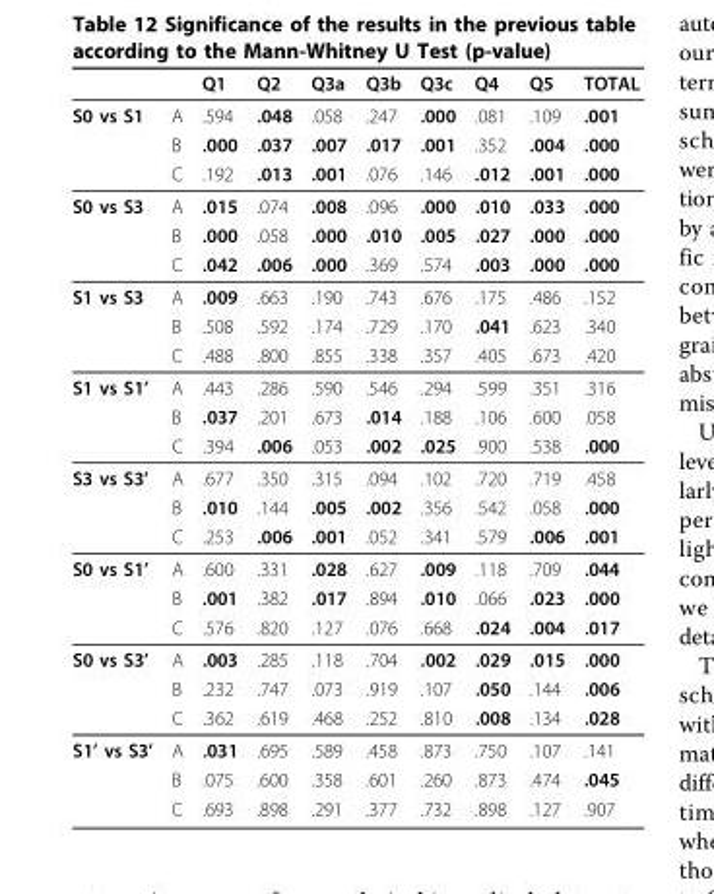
<table><thead><tr><td></td><td></td><td>Q1</td><td>Q2</td><td>Q3a</td><td>Q3b</td><td>Q3c</td><td>Q4</td><td>Q5</td><td>TOTAL</td></tr></thead><tbody><tr><td rowspan="3">S0 vs S1</td><td>A</td><td>.594</td><td>.048</td><td>.058</td><td>.247</td><td>.000</td><td>.081</td><td>.109</td><td>.001</td></tr><tr><td>B</td><td>.000</td><td>.037</td><td>.007</td><td>.017</td><td>.001</td><td>.352</td><td>.004</td><td>.000</td></tr><tr><td>C</td><td>.192</td><td>.013</td><td>.001</td><td>.076</td><td>.146</td><td>.012</td><td>.001</td><td>.000</td></tr><tr><td rowspan="3">S0 vs S3</td><td>A</td><td>.015</td><td>.074</td><td>.008</td><td>.096</td><td>.000</td><td>.010</td><td>.033</td><td>.000</td></tr><tr><td>B</td><td>.000</td><td>.058</td><td>.000</td><td>.010</td><td>.005</td><td>.027</td><td>.000</td><td>.000</td></tr><tr><td>C</td><td>.042</td><td>.006</td><td>.000</td><td>.369</td><td>.574</td><td>.003</td><td>.000</td><td>.000</td></tr><tr><td rowspan="3">S1 vs S3</td><td>A</td><td>.009</td><td>.663</td><td>.190</td><td>.743</td><td>.676</td><td>.175</td><td>.486</td><td>.152</td></tr><tr><td>B</td><td>.508</td><td>.592</td><td>.174</td><td>.729</td><td>.170</td><td>.041</td><td>.623</td><td>.340</td></tr><tr><td>C</td><td>.488</td><td>.800</td><td>.855</td><td>.338</td><td>.357</td><td>.405</td><td>.673</td><td>.420</td></tr><tr><td rowspan="3">S1 vs S1’</td><td>A</td><td>.443</td><td>.286</td><td>.590</td><td>.546</td><td>.294</td><td>.599</td><td>.351</td><td>.316</td></tr><tr><td>B</td><td>.037</td><td>.201</td><td>.673</td><td>.014</td><td>.188</td><td>.106</td><td>.600</td><td>.058</td></tr><tr><td>C</td><td>.394</td><td>.006</td><td>.053</td><td>.002</td><td>.025</td><td>.900</td><td>.538</td><td>.000</td></tr><tr><td rowspan="3">S3 vs S3’</td><td>A</td><td>.677</td><td>.350</td><td>.315</td><td>.094</td><td>.102</td><td>.720</td><td>.719</td><td>.458</td></tr><tr><td>B</td><td>.010</td><td>.144</td><td>.005</td><td>.002</td><td>.356</td><td>.542</td><td>.058</td><td>.000</td></tr><tr><td>C</td><td>.253</td><td>.006</td><td>.001</td><td>.052</td><td>.341</td><td>.579</td><td>.006</td><td>.001</td></tr><tr><td rowspan="3">S0 vs S1’</td><td>A</td><td>.600</td><td>.331</td><td>.028</td><td>.627</td><td>.009</td><td>.118</td><td>.709</td><td>.044</td></tr><tr><td>B</td><td>.001</td><td>.382</td><td>.017</td><td>.894</td><td>.010</td><td>.066</td><td>.023</td><td>.000</td></tr><tr><td>C</td><td>.576</td><td>.820</td><td>.127</td><td>.076</td><td>.668</td><td>.024</td><td>.004</td><td>.017</td></tr><tr><td rowspan="3">S0 vs S3’</td><td>A</td><td>.003</td><td>.285</td><td>.118</td><td>.704</td><td>.002</td><td>.029</td><td>.015</td><td>.000</td></tr><tr><td>B</td><td>.232</td><td>.747</td><td>.073</td><td>.919</td><td>.107</td><td>.050</td><td>.144</td><td>.006</td></tr><tr><td>C</td><td>.362</td><td>.619</td><td>.468</td><td>.252</td><td>.810</td><td>.008</td><td>.134</td><td>.028</td></tr><tr><td rowspan="3">S1’ vs S3’</td><td>A</td><td>.031</td><td>.695</td><td>.589</td><td>.458</td><td>.873</td><td>.750</td><td>.107</td><td>.141</td></tr><tr><td>B</td><td>.075</td><td>.600</td><td>.358</td><td>.601</td><td>.260</td><td>.873</td><td>.474</td><td>.045</td></tr><tr><td>C</td><td>.693</td><td>.898</td><td>.291</td><td>.377</td><td>.732</td><td>.898</td><td>.127</td><td>.907</td></tr></tbody></table>